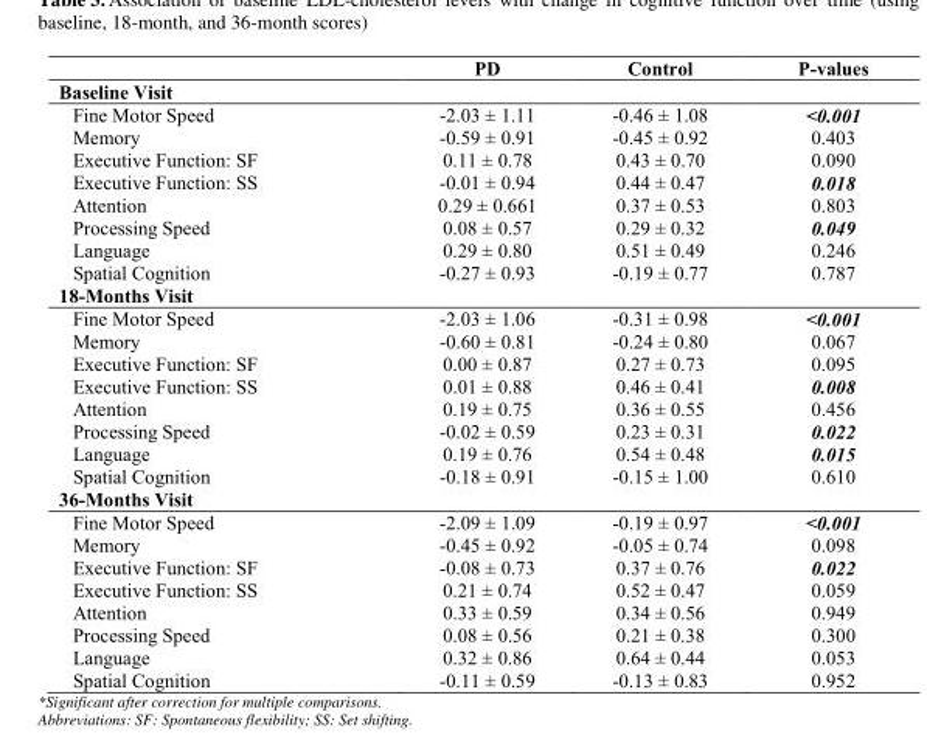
<table><thead><tr><td></td><td>PD</td><td>Control</td><td>P-values</td></tr></thead><tbody><tr><td colspan="4">Baseline Visit</td></tr><tr><td>Fine Motor Speed</td><td>-2.03 ± 1.11</td><td>-0.46 ± 1.08</td><td>&lt;0.001</td></tr><tr><td>Memory</td><td>-0.59 ± 0.91</td><td>-0.45 ± 0.92</td><td>0.403</td></tr><tr><td>Executive Function: SF</td><td>0.11 ± 0.78</td><td>0.43 ± 0.70</td><td>0.090</td></tr><tr><td>Executive Function: SS</td><td>-0.01 ± 0.94</td><td>0.44 ± 0.47</td><td>0.018</td></tr><tr><td>Attention</td><td>0.29 ± 0.661</td><td>0.37 ± 0.53</td><td>0.803</td></tr><tr><td>Processing Speed</td><td>0.08 ± 0.57</td><td>0.29 ± 0.32</td><td>0.049</td></tr><tr><td>Language</td><td>0.29 ± 0.80</td><td>0.51 ± 0.49</td><td>0.246</td></tr><tr><td>Spatial Cognition</td><td>-0.27 ± 0.93</td><td>-0.19 ± 0.77</td><td>0.787</td></tr><tr><td colspan="4">18-Months Visit</td></tr><tr><td>Fine Motor Speed</td><td>-2.03 ± 1.06</td><td>-0.31 ± 0.98</td><td>&lt;0.001</td></tr><tr><td>Memory</td><td>-0.60 ± 0.81</td><td>-0.24 ± 0.80</td><td>0.067</td></tr><tr><td>Executive Function: SF</td><td>0.00 ± 0.87</td><td>0.27 ± 0.73</td><td>0.095</td></tr><tr><td>Executive Function: SS</td><td>0.01 ± 0.88</td><td>0.46 ± 0.41</td><td>0.008</td></tr><tr><td>Attention</td><td>0.19 ± 0.75</td><td>0.36 ± 0.55</td><td>0.456</td></tr><tr><td>Processing Speed</td><td>-0.02 ± 0.59</td><td>0.23 ± 0.31</td><td>0.022</td></tr><tr><td>Language</td><td>0.19 ± 0.76</td><td>0.54 ± 0.48</td><td>0.015</td></tr><tr><td>Spatial Cognition</td><td>-0.18 ± 0.91</td><td>-0.15 ± 1.00</td><td>0.610</td></tr><tr><td colspan="4">36-Months Visit</td></tr><tr><td>Fine Motor Speed</td><td>-2.09 ± 1.09</td><td>-0.19 ± 0.97</td><td>&lt;0.001</td></tr><tr><td>Memory</td><td>-0.45 ± 0.92</td><td>-0.05 ± 0.74</td><td>0.098</td></tr><tr><td>Executive Function: SF</td><td>-0.08 ± 0.73</td><td>0.37 ± 0.76</td><td>0.022</td></tr><tr><td>Executive Function: SS</td><td>0.21 ± 0.74</td><td>0.52 ± 0.47</td><td>0.059</td></tr><tr><td>Attention</td><td>0.33 ± 0.59</td><td>0.34 ± 0.56</td><td>0.949</td></tr><tr><td>Processing Speed</td><td>0.08 ± 0.56</td><td>0.21 ± 0.38</td><td>0.300</td></tr><tr><td>Language</td><td>0.32 ± 0.86</td><td>0.64 ± 0.44</td><td>0.053</td></tr><tr><td>Spatial Cognition</td><td>-0.11 ± 0.59</td><td>-0.13 ± 0.83</td><td>0.952</td></tr></tbody></table>